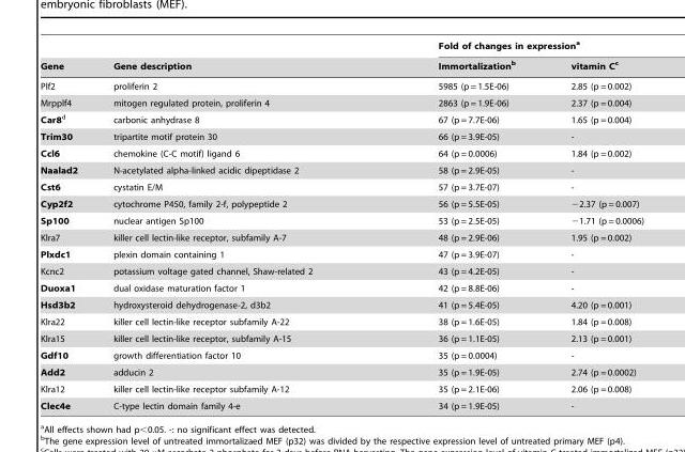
<table><thead><tr><td rowspan="2">Gene</td><td rowspan="2">Gene description</td><td colspan="2">Fold of changes in expression<sup>a</sup></td></tr><tr><td>Immortalization<sup>b</sup></td><td>vitamin C<sup>c</sup></td></tr></thead><tbody><tr><td>Plf2</td><td>proliferin 2</td><td>5985 (p = 1.5E-06)</td><td>2.85 (p = 0.002)</td></tr><tr><td>Mrpplf4</td><td>mitogen regulated protein, proliferin 4</td><td>2863 (p = 1.9E-06)</td><td>2.37 (p = 0.004)</td></tr><tr><td>Car8d</td><td>carbonic anhydrase 8</td><td>67 (p = 7.7E-06)</td><td>1.65 (p = 0.004)</td></tr><tr><td>Trim30</td><td>tripartite motif protein 30</td><td>66 (p = 3.9E-05)</td><td>-</td></tr><tr><td>Ccl6</td><td>chemokine (C-C motif) ligand 6</td><td>64 (p = 0.0006)</td><td>1.84 (p = 0.002)</td></tr><tr><td>Naalad2</td><td>N-acetylated alpha-linked acidic dipeptidase 2</td><td>58 (p = 2.9E-05)</td><td>-</td></tr><tr><td>Cst6</td><td>cystatin E/M</td><td>57 (p = 3.7E-07)</td><td>-</td></tr><tr><td>Cyp2f2</td><td>cytochrome P450, family 2-f, polypeptide 2</td><td>56 (p = 5.5E-05)</td><td>−2.37 (p = 0.007)</td></tr><tr><td>Sp100</td><td>nuclear antigen Sp100</td><td>53 (p = 2.5E-05)</td><td>−1.71 (p = 0.0006)</td></tr><tr><td>Klra7</td><td>killer cell lectin-like receptor, subfamily A-7</td><td>48 (p = 2.9E-06)</td><td>1.95 (p = 0.002)</td></tr><tr><td>Plxdc1</td><td>plexin domain containing 1</td><td>47 (p = 3.9E-07)</td><td>-</td></tr><tr><td>Kcnc2</td><td>potassium voltage gated channel, Shaw-related 2</td><td>43 (p = 4.2E-05)</td><td>-</td></tr><tr><td>Duoxa1</td><td>dual oxidase maturation factor 1</td><td>42 (p = 8.8E-06)</td><td>-</td></tr><tr><td>Hsd3b2</td><td>hydroxysteroid dehydrogenase-2, d3b2</td><td>41 (p = 5.4E-05)</td><td>4.20 (p = 0.001)</td></tr><tr><td>Klra22</td><td>killer cell lectin-like receptor subfamily A-22</td><td>38 (p = 1.6E-05)</td><td>1.84 (p = 0.008)</td></tr><tr><td>Klra15</td><td>killer cell lectin-like receptor, subfamily A-15</td><td>36 (p = 1.1E-05)</td><td>2.13 (p = 0.001)</td></tr><tr><td>Gdf10</td><td>growth differentiation factor 10</td><td>35 (p = 0.0004)</td><td>-</td></tr><tr><td>Add2</td><td>adducin 2</td><td>35 (p = 1.9E-05)</td><td>2.74 (p = 0.0002)</td></tr><tr><td>Klra12</td><td>killer cell lectin-like receptor subfamily A-12</td><td>35 (p = 2.1E-06)</td><td>2.06 (p = 0.008)</td></tr><tr><td>Clec4e</td><td>C-type lectin domain family 4-e</td><td>34 (p = 1.9E-05)</td><td>-</td></tr></tbody></table>